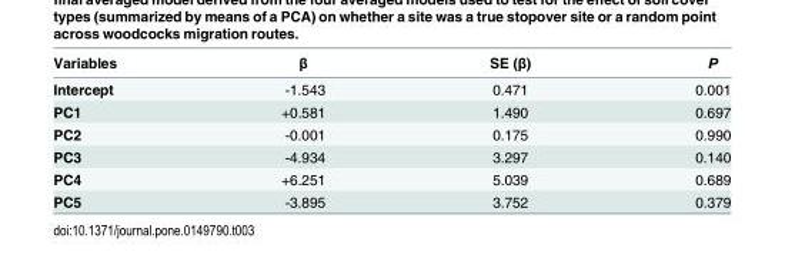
<table><thead><tr><td>Variables</td><td>β</td><td>SE (β)</td><td>P</td></tr></thead><tbody><tr><td>Intercept</td><td>-1.543</td><td>0.471</td><td>0.001</td></tr><tr><td>PC1</td><td>+0.581</td><td>1.490</td><td>0.697</td></tr><tr><td>PC2</td><td>-0.001</td><td>0.175</td><td>0.990</td></tr><tr><td>PC3</td><td>-4.934</td><td>3.297</td><td>0.140</td></tr><tr><td>PC4</td><td>+6.251</td><td>5.039</td><td>0.689</td></tr><tr><td>PC5</td><td>-3.895</td><td>3.752</td><td>0.379</td></tr></tbody></table>